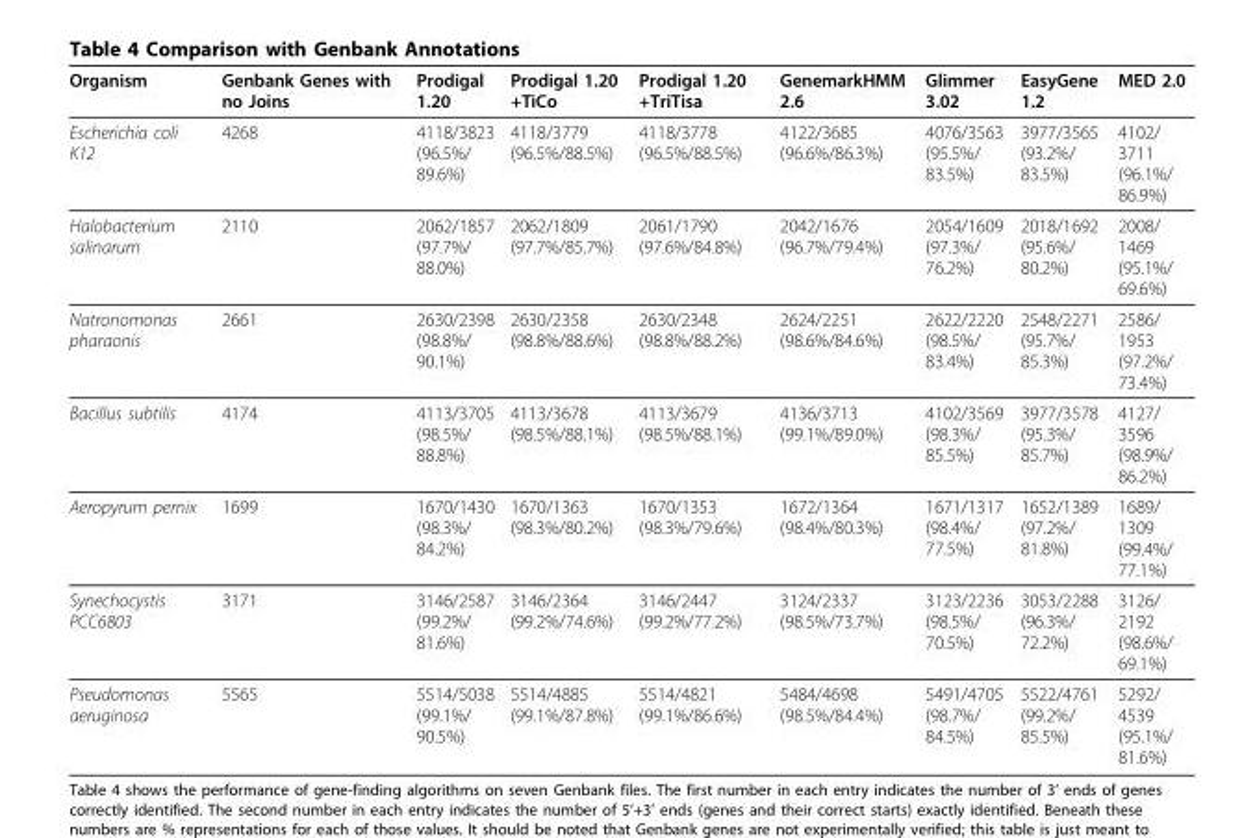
<table><thead><tr><td>Organism</td><td>Genbank Genes with no Joins</td><td>Prodigal 1.20</td><td>Prodigal 1.20 +TiCo</td><td>Prodigal 1.20 +TriTisa</td><td>GenemarkHMM 2.6</td><td>Glimmer 3.02</td><td>EasyGene 1.2</td><td>MED 2.0</td></tr></thead><tbody><tr><td>Escherichia coli K12</td><td>4268</td><td>4118/3823 (96.5%/ 89.6%)</td><td>4118/3779 (96.5%/88.5%)</td><td>4118/3778 (96.5%/88.5%)</td><td>4122/3685 (96.6%/86.3%)</td><td>4076/3563 (95.5%/ 83.5%)</td><td>3977/3565 (93.2%/ 83.5%)</td><td>4102/ 3711 (96.1%/ 86.9%)</td></tr><tr><td>Halobacterium salinarum</td><td>2110</td><td>2062/1857 (97.7%/ 88.0%)</td><td>2062/1809 (97.7%/85.7%)</td><td>2061/1790 (97.6%/84.8%)</td><td>2042/1676 (96.7%/79.4%)</td><td>2054/1609 (97.3%/ 76.2%)</td><td>2018/1692 (95.6%/ 80.2%)</td><td>2008/ 1469 (95.1%/ 69.6%)</td></tr><tr><td>Natronomonas pharaonis</td><td>2661</td><td>2630/2398 (98.8%/ 90.1%)</td><td>2630/2358 (98.8%/88.6%)</td><td>2630/2348 (98.8%/88.2%)</td><td>2624/2251 (98.6%/84.6%)</td><td>2622/2220 (98.5%/ 83.4%)</td><td>2548/2271 (95.7%/ 85.3%)</td><td>2586/ 1953 (97.2%/ 73.4%)</td></tr><tr><td>Bacillus subtilis</td><td>4174</td><td>4113/3705 (98.5%/ 88.8%)</td><td>4113/3678 (98.5%/88.1%)</td><td>4113/3679 (98.5%/88.1%)</td><td>4136/3713 (99.1%/89.0%)</td><td>4102/3569 (98.3%/ 85.5%)</td><td>3977/3578 (95.3%/ 85.7%)</td><td>4127/ 3596 (98.9%/ 86.2%)</td></tr><tr><td>Aeropyrum pernix</td><td>1699</td><td>1670/1430 (98.3%/ 84.2%)</td><td>1670/1363 (98.3%/80.2%)</td><td>1670/1353 (98.3%/79.6%)</td><td>1672/1364 (98.4%/80.3%)</td><td>1671/1317 (98.4%/ 77.5%)</td><td>1652/1389 (97.2%/ 81.8%)</td><td>1689/ 1309 (99.4%/ 77.1%)</td></tr><tr><td>Synechocystis PCC6803</td><td>3171</td><td>3146/2587 (99.2%/ 81.6%)</td><td>3146/2364 (99.2%/74.6%)</td><td>3146/2447 (99.2%/77.2%)</td><td>3124/2337 (98.5%/73.7%)</td><td>3123/2236 (98.5%/ 70.5%)</td><td>3053/2288 (96.3%/ 72.2%)</td><td>3126/ 2192 (98.6%/ 69.1%)</td></tr><tr><td>Pseudomonas aeruginosa</td><td>5565</td><td>5514/5038 (99.1%/ 90.5%)</td><td>5514/4885 (99.1%/87.8%)</td><td>5514/4821 (99.1%/86.6%)</td><td>5484/4698 (98.5%/84.4%)</td><td>5491/4705 (98.7%/ 84.5%)</td><td>5522/4761 (99.2%/ 85.5%)</td><td>5292/ 4539 (95.1%/ 81.6%)</td></tr></tbody></table>